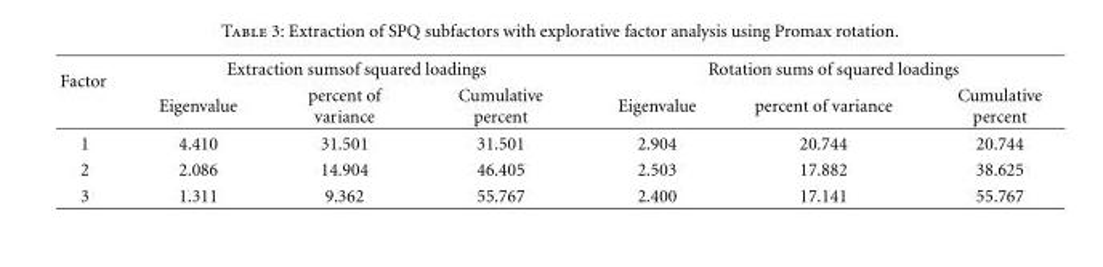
<table><thead><tr><td rowspan="2">Factor</td><td colspan="3">Extraction sumsof squared loadings</td><td colspan="3">Rotation sums of squared loadings</td></tr><tr><td>Eigenvalue</td><td>percent of variance</td><td>Cumulative percent</td><td>Eigenvalue</td><td>percent of variance</td><td>Cumulative percent</td></tr></thead><tbody><tr><td>1</td><td>4.410</td><td>31.501</td><td>31.501</td><td>2.904</td><td>20.744</td><td>20.744</td></tr><tr><td>2</td><td>2.086</td><td>14.904</td><td>46.405</td><td>2.503</td><td>17.882</td><td>38.625</td></tr><tr><td>3</td><td>1.311</td><td>9.362</td><td>55.767</td><td>2.400</td><td>17.141</td><td>55.767</td></tr></tbody></table>